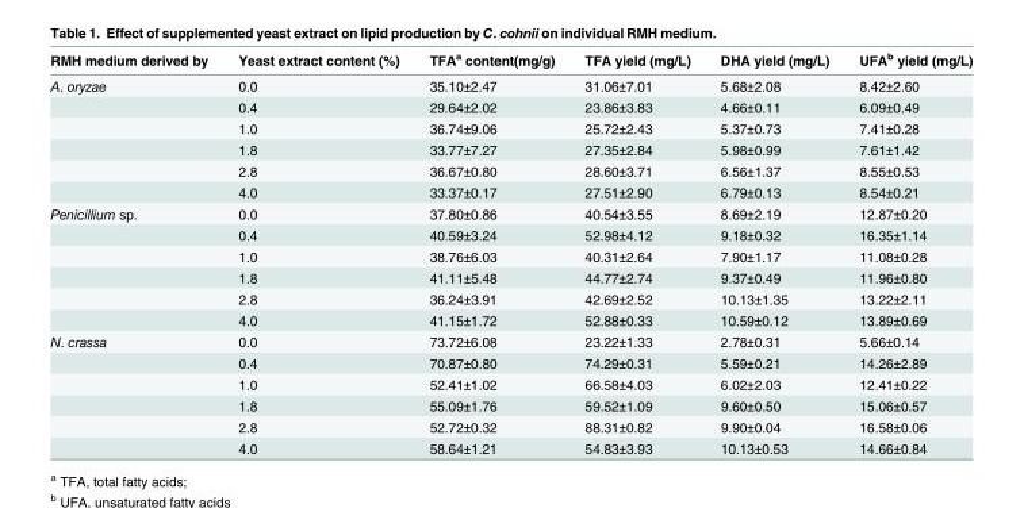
<table><thead><tr><td>RMH medium derived by</td><td>Yeast extract content (%)</td><td>TFA<sup>a</sup> content(mg/g)</td><td>TFA yield (mg/L)</td><td>DHA yield (mg/L)</td><td>UFA<sup>b</sup> yield (mg/L)</td></tr></thead><tbody><tr><td rowspan="6">A. oryzae</td><td>0.0</td><td>35.10±2.47</td><td>31.06±7.01</td><td>5.68±2.08</td><td>8.42±2.60</td></tr><tr><td>0.4</td><td>29.64±2.02</td><td>23.86±3.83</td><td>4.66±0.11</td><td>6.09±0.49</td></tr><tr><td>1.0</td><td>36.74±9.06</td><td>25.72±2.43</td><td>5.37±0.73</td><td>7.41±0.28</td></tr><tr><td>1.8</td><td>33.77±7.27</td><td>27.35±2.84</td><td>5.98±0.99</td><td>7.61±1.42</td></tr><tr><td>2.8</td><td>36.67±0.80</td><td>28.60±3.71</td><td>6.56±1.37</td><td>8.55±0.53</td></tr><tr><td>4.0</td><td>33.37±0.17</td><td>27.51±2.90</td><td>6.79±0.13</td><td>8.54±0.21</td></tr><tr><td rowspan="6">Penicillium sp.</td><td>0.0</td><td>37.80±0.86</td><td>40.54±3.55</td><td>8.69±2.19</td><td>12.87±0.20</td></tr><tr><td>0.4</td><td>40.59±3.24</td><td>52.98±4.12</td><td>9.18±0.32</td><td>16.35±1.14</td></tr><tr><td>1.0</td><td>38.76±6.03</td><td>40.31±2.64</td><td>7.90±1.17</td><td>11.08±0.28</td></tr><tr><td>1.8</td><td>41.11±5.48</td><td>44.77±2.74</td><td>9.37±0.49</td><td>11.96±0.80</td></tr><tr><td>2.8</td><td>36.24±3.91</td><td>42.69±2.52</td><td>10.13±1.35</td><td>13.22±2.11</td></tr><tr><td>4.0</td><td>41.15±1.72</td><td>52.88±0.33</td><td>10.59±0.12</td><td>13.89±0.69</td></tr><tr><td rowspan="6">N. crassa</td><td>0.0</td><td>73.72±6.08</td><td>23.22±1.33</td><td>2.78±0.31</td><td>5.66±0.14</td></tr><tr><td>0.4</td><td>70.87±0.80</td><td>74.29±0.31</td><td>5.59±0.21</td><td>14.26±2.89</td></tr><tr><td>1.0</td><td>52.41±1.02</td><td>66.58±4.03</td><td>6.02±2.03</td><td>12.41±0.22</td></tr><tr><td>1.8</td><td>55.09±1.76</td><td>59.52±1.09</td><td>9.60±0.50</td><td>15.06±0.57</td></tr><tr><td>2.8</td><td>52.72±0.32</td><td>88.31±0.82</td><td>9.90±0.04</td><td>16.58±0.06</td></tr><tr><td>4.0</td><td>58.64±1.21</td><td>54.83±3.93</td><td>10.13±0.53</td><td>14.66±0.84</td></tr></tbody></table>